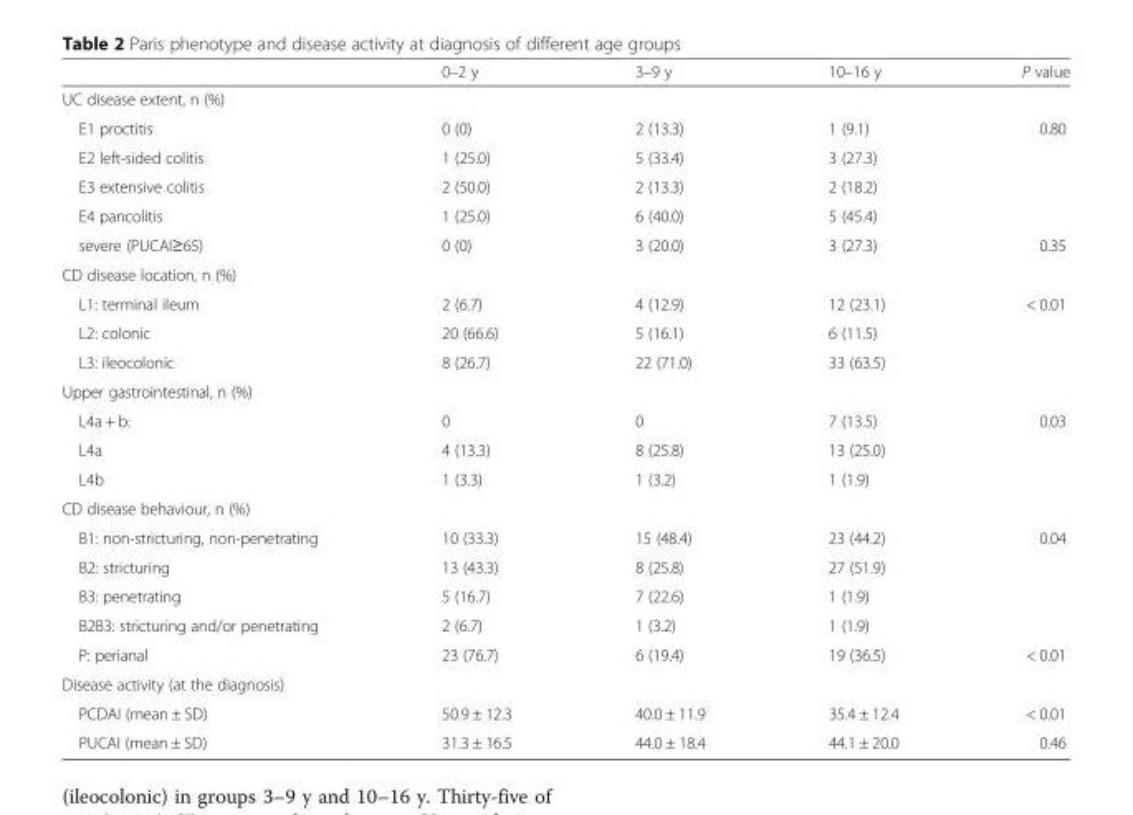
<table><thead><tr><td></td><td>0–2 y</td><td>3–9 y</td><td>10–16 y</td><td>P value</td></tr></thead><tbody><tr><td colspan="5">UC disease extent, n (%)</td></tr><tr><td>E1 proctitis</td><td>0 (0)</td><td>2 (13.3)</td><td>1 (9.1)</td><td>0.80</td></tr><tr><td>E2 left-sided colitis</td><td>1 (25.0)</td><td>5 (33.4)</td><td>3 (27.3)</td><td></td></tr><tr><td>E3 extensive colitis</td><td>2 (50.0)</td><td>2 (13.3)</td><td>2 (18.2)</td><td></td></tr><tr><td>E4 pancolitis</td><td>1 (25.0)</td><td>6 (40.0)</td><td>5 (45.4)</td><td></td></tr><tr><td>severe (PUCAI≥65)</td><td>0 (0)</td><td>3 (20.0)</td><td>3 (27.3)</td><td>0.35</td></tr><tr><td colspan="5">CD disease location, n (%)</td></tr><tr><td>L1: terminal ileum</td><td>2 (6.7)</td><td>4 (12.9)</td><td>12 (23.1)</td><td>&lt; 0.01</td></tr><tr><td>L2: colonic</td><td>20 (66.6)</td><td>5 (16.1)</td><td>6 (11.5)</td><td></td></tr><tr><td>L3: ileocolonic</td><td>8 (26.7)</td><td>22 (71.0)</td><td>33 (63.5)</td><td></td></tr><tr><td colspan="5">Upper gastrointestinal, n (%)</td></tr><tr><td>L4a + b:</td><td>0</td><td>0</td><td>7 (13.5)</td><td>0.03</td></tr><tr><td>L4a</td><td>4 (13.3)</td><td>8 (25.8)</td><td>13 (25.0)</td><td></td></tr><tr><td>L4b</td><td>1 (3.3)</td><td>1 (3.2)</td><td>1 (1.9)</td><td></td></tr><tr><td colspan="5">CD disease behaviour, n (%)</td></tr><tr><td>B1: non-stricturing, non-penetrating</td><td>10 (33.3)</td><td>15 (48.4)</td><td>23 (44.2)</td><td>0.04</td></tr><tr><td>B2: stricturing</td><td>13 (43.3)</td><td>8 (25.8)</td><td>27 (51.9)</td><td></td></tr><tr><td>B3: penetrating</td><td>5 (16.7)</td><td>7 (22.6)</td><td>1 (1.9)</td><td></td></tr><tr><td>B2B3: stricturing and/or penetrating</td><td>2 (6.7)</td><td>1 (3.2)</td><td>1 (1.9)</td><td></td></tr><tr><td>P: perianal</td><td>23 (76.7)</td><td>6 (19.4)</td><td>19 (36.5)</td><td>&lt; 0.01</td></tr><tr><td colspan="5">Disease activity (at the diagnosis)</td></tr><tr><td>PCDAI (mean ± SD)</td><td>50.9 ± 12.3</td><td>40.0 ± 11.9</td><td>35.4 ± 12.4</td><td>&lt; 0.01</td></tr><tr><td>PUCAI (mean ± SD)</td><td>31.3 ± 16.5</td><td>44.0 ± 18.4</td><td>44.1 ± 20.0</td><td>0.46</td></tr></tbody></table>